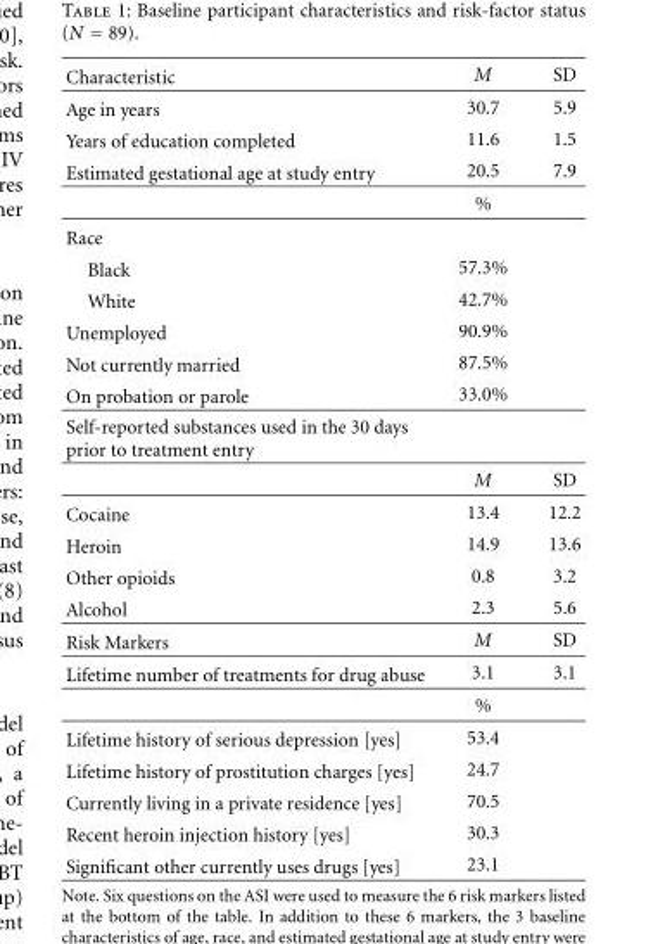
<table><thead><tr><td>Characteristic</td><td>M</td><td>SD</td></tr></thead><tbody><tr><td>Age in years</td><td>30.7</td><td>5.9</td></tr><tr><td>Years of education completed</td><td>11.6</td><td>1.5</td></tr><tr><td rowspan="2">Estimated gestational age at study entry</td><td>20.5</td><td>7.9</td></tr><tr><td>%</td><td></td></tr><tr><td colspan="3">Race</td></tr><tr><td>Black</td><td>57.3%</td><td></td></tr><tr><td>White</td><td>42.7%</td><td></td></tr><tr><td>Unemployed</td><td>90.9%</td><td></td></tr><tr><td>Not currently married</td><td>87.5%</td><td></td></tr><tr><td>On probation or parole</td><td>33.0%</td><td></td></tr><tr><td colspan="3">Self-reported substances used in the 30 days prior to treatment entry</td></tr><tr><td></td><td>M</td><td>SD</td></tr><tr><td>Cocaine</td><td>13.4</td><td>12.2</td></tr><tr><td>Heroin</td><td>14.9</td><td>13.6</td></tr><tr><td>Other opioids</td><td>0.8</td><td>3.2</td></tr><tr><td>Alcohol</td><td>2.3</td><td>5.6</td></tr><tr><td>Risk Markers</td><td>M</td><td>SD</td></tr><tr><td rowspan="2">Lifetime number of treatments for drug abuse</td><td>3.1</td><td>3.1</td></tr><tr><td>%</td><td></td></tr><tr><td>Lifetime history of serious depression [yes]</td><td>53.4</td><td></td></tr><tr><td>Lifetime history of prostitution charges [yes]</td><td>24.7</td><td></td></tr><tr><td>Currently living in a private residence [yes]</td><td>70.5</td><td></td></tr><tr><td>Recent heroin injection history [yes]</td><td>30.3</td><td></td></tr><tr><td>Significant other currently uses drugs [yes]</td><td>23.1</td><td></td></tr></tbody></table>